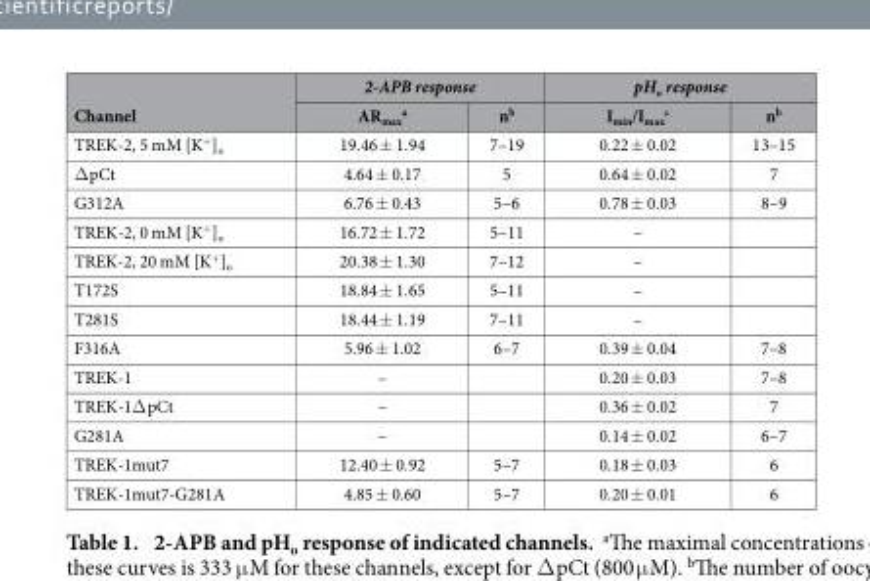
<table><thead><tr><td rowspan="2">Channel</td><td colspan="2">2-APB response</td><td colspan="2">pH<sub>o</sub> response</td></tr><tr><td>AR<sub>max</sub> <sup>a</sup></td><td>n<sup>b</sup></td><td>I<sub>min</sub>/I<sub>max</sub> <sup>c</sup></td><td>n<sup>b</sup></td></tr></thead><tbody><tr><td>TREK-2, 5 mM [K<sup>+</sup>]<sub>o</sub></td><td>19.46 ± 1.94</td><td>7–19</td><td>0.22 ± 0.02</td><td>13–15</td></tr><tr><td>Δ pCt</td><td>4.64 ± 0.17</td><td>5</td><td>0.64 ± 0.02</td><td>7</td></tr><tr><td>G312A</td><td>6.76 ± 0.43</td><td>5–6</td><td>0.78 ± 0.03</td><td>8–9</td></tr><tr><td>TREK-2, 0 mM [K<sup>+</sup>]<sub>o</sub></td><td>16.72 ± 1.72</td><td>5–11</td><td>–</td><td></td></tr><tr><td>TREK-2, 20 mM [K<sup>+</sup>]<sub>o</sub></td><td>20.38 ± 1.30</td><td>7–12</td><td>–</td><td></td></tr><tr><td>T172S</td><td>18.84 ± 1.65</td><td>5–11</td><td>–</td><td></td></tr><tr><td>T281S</td><td>18.44 ± 1.19</td><td>7–11</td><td>–</td><td></td></tr><tr><td>F316A</td><td>5.96 ± 1.02</td><td>6–7</td><td>0.39 ± 0.04</td><td>7–8</td></tr><tr><td>TREK-1</td><td>–</td><td></td><td>0.20 ± 0.03</td><td>7–8</td></tr><tr><td>TREK-1Δ pCt</td><td>–</td><td></td><td>0.36 ± 0.02</td><td>7</td></tr><tr><td>G281A</td><td>–</td><td></td><td>0.14 ± 0.02</td><td>6–7</td></tr><tr><td>TREK-1mut7</td><td>12.40 ± 0.92</td><td>5–7</td><td>0.18 ± 0.03</td><td>6</td></tr><tr><td>TREK-1mut7-G281A</td><td>4.85 ± 0.60</td><td>5–7</td><td>0.20 ± 0.01</td><td>6</td></tr></tbody></table>